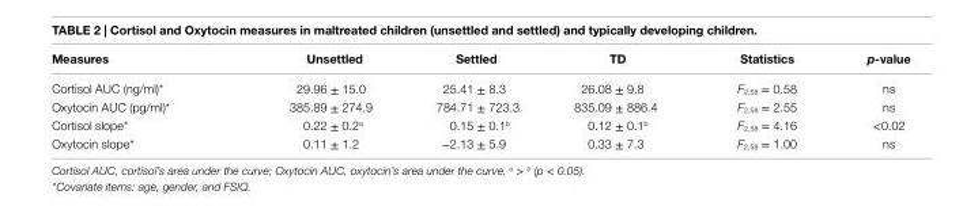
<table><thead><tr><td>Measures</td><td>Unsettled</td><td>settled</td><td>TD</td><td>statistics</td><td>p-value</td></tr></thead><tbody><tr><td>Cortisol AUC (ng/ml)*</td><td>29.96 ± 15.0</td><td>25.41 ± 8.3</td><td>26.08 ± 9.8</td><td>F<sub>2,58</sub> = 0.58</td><td>ns</td></tr><tr><td>Oxytocin AUC (pg/ml)*</td><td>385.89 ± 274.9</td><td>784.71 ± 723.3</td><td>835.09 ± 886.4</td><td>F<sub>2,58</sub> = 2.55</td><td>ns</td></tr><tr><td>Cortisol slope*</td><td>0.22 ± 0.2<sup>a</sup></td><td>0.15 ± 0.1<sup>b</sup></td><td>0.12 ± 0.1<sup>b</sup></td><td>F<sub>2,58</sub> = 4.16</td><td>&lt;0.02</td></tr><tr><td>Oxytocin slope*</td><td>0.11 ± 1.2</td><td>−2.13 ± 5.9</td><td>0.33 ± 7.3</td><td>F<sub>2,58</sub> = 1.00</td><td>ns</td></tr></tbody></table>